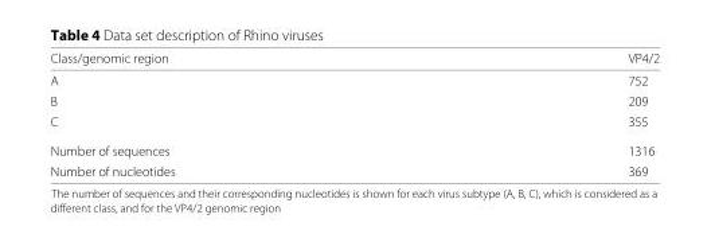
<table><thead><tr><td>Class/genomic region</td><td>VP4/2</td></tr></thead><tbody><tr><td>A</td><td>752</td></tr><tr><td>B</td><td>209</td></tr><tr><td>C</td><td>355</td></tr><tr><td>Number of sequences</td><td>1316</td></tr><tr><td>Number of nucleotides</td><td>369</td></tr></tbody></table>